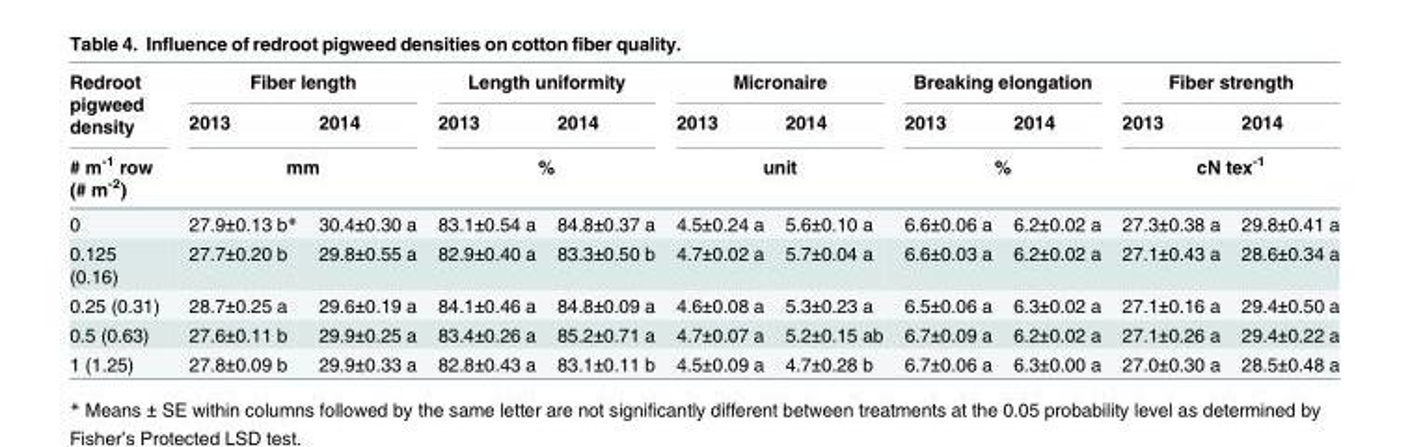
<table><thead><tr><td rowspan="3">Redroot pigweed density # m<sup>-1</sup> row (# m<sup>-2</sup>)</td><td colspan="2">Fiber length</td><td colspan="2">Length uniformity</td><td colspan="2">Micronaire</td><td colspan="2">Breaking elongation</td><td colspan="2">Fiber strength</td></tr><tr><td>2013</td><td>2014</td><td>2013</td><td>2014</td><td>2013</td><td>2014</td><td>2013</td><td>2014</td><td>2013</td><td>2014</td></tr><tr><td colspan="2">mm</td><td colspan="2">%</td><td colspan="2">unit</td><td colspan="2">%</td><td colspan="2">cN tex<sup>-1</sup></td></tr></thead><tbody><tr><td>0</td><td>27.9±0.13 b*</td><td>30.4±0.30 a</td><td>83.1±0.54 a</td><td>84.8±0.37 a</td><td>4.5±0.24 a</td><td>5.6±0.10 a</td><td>6.6±0.06 a</td><td>6.2±0.02 a</td><td>27.3±0.38 a</td><td>29.8±0.41 a</td></tr><tr><td>0.125 (0.16)</td><td>27.7±0.20 b</td><td>29.8±0.55 a</td><td>82.9±0.40 a</td><td>83.3±0.50 b</td><td>4.7±0.02 a</td><td>5.7±0.04 a</td><td>6.6±0.03 a</td><td>6.2±0.02 a</td><td>27.1±0.43 a</td><td>28.6±0.34 a</td></tr><tr><td>0.25 (0.31)</td><td>28.7±0.25 a</td><td>29.6±0.19 a</td><td>84.1±0.46 a</td><td>84.8±0.09 a</td><td>4.6±0.08 a</td><td>5.3±0.23 a</td><td>6.5±0.06 a</td><td>6.3±0.02 a</td><td>27.1±0.16 a</td><td>29.4±0.50 a</td></tr><tr><td>0.5 (0.63)</td><td>27.6±0.11 b</td><td>29.9±0.25 a</td><td>83.4±0.26 a</td><td>85.2±0.71 a</td><td>4.7±0.07 a</td><td>5.2±0.15 ab</td><td>6.7±0.09 a</td><td>6.2±0.02 a</td><td>27.1±0.26 a</td><td>29.4±0.22 a</td></tr><tr><td>1 (1.25)</td><td>27.8±0.09 b</td><td>29.9±0.33 a</td><td>82.8±0.43 a</td><td>83.1±0.11 b</td><td>4.5±0.09 a</td><td>4.7±0.28 b</td><td>6.7±0.06 a</td><td>6.3±0.00 a</td><td>27.0±0.30 a</td><td>28.5±0.48 a</td></tr></tbody></table>